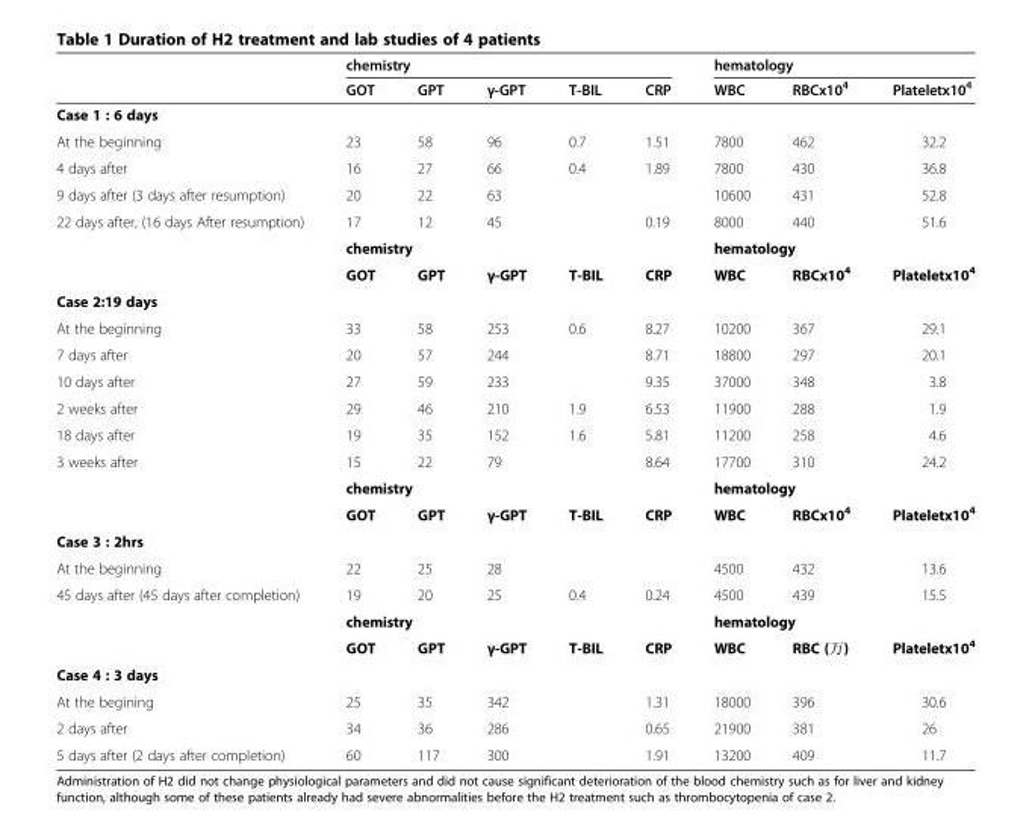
<table><thead><tr><td rowspan="2"></td><td colspan="5">chemistry</td><td colspan="3">hematology</td></tr><tr><td>GOT</td><td>GPT</td><td>γ-GPT</td><td>T-BIL</td><td>CRP</td><td>WBC</td><td>RBCx10<sup>4</sup></td><td>Plateletx10<sup>4</sup></td></tr></thead><tbody><tr><td colspan="9">Case 1 : 6 days</td></tr><tr><td>At the beginning</td><td>23</td><td>58</td><td>96</td><td>0.7</td><td>1.51</td><td>7800</td><td>462</td><td>32.2</td></tr><tr><td>4 days after</td><td>16</td><td>27</td><td>66</td><td>0.4</td><td>1.89</td><td>7800</td><td>430</td><td>36.8</td></tr><tr><td>9 days after (3 days after resumption)</td><td>20</td><td>22</td><td>63</td><td></td><td></td><td>10600</td><td>431</td><td>52.8</td></tr><tr><td rowspan="3">22 days after, (16 days After resumption)</td><td>17</td><td>12</td><td>45</td><td></td><td>0.19</td><td>8000</td><td>440</td><td>51.6</td></tr><tr><td colspan="5">chemistry</td><td colspan="3">hematology</td></tr><tr><td>GOT</td><td>GPT</td><td>γ-GPT</td><td>T-BIL</td><td>CRP</td><td>WBC</td><td>RBCx10<sup>4</sup></td><td>Plateletx10<sup>4</sup></td></tr><tr><td colspan="9">Case 2:19 days</td></tr><tr><td>At the beginning</td><td>33</td><td>58</td><td>253</td><td>0.6</td><td>8.27</td><td>10200</td><td>367</td><td>29.1</td></tr><tr><td>7 days after</td><td>20</td><td>57</td><td>244</td><td></td><td>8.71</td><td>18800</td><td>297</td><td>20.1</td></tr><tr><td>10 days after</td><td>27</td><td>59</td><td>233</td><td></td><td>9.35</td><td>37000</td><td>348</td><td>3.8</td></tr><tr><td>2 weeks after</td><td>29</td><td>46</td><td>210</td><td>1.9</td><td>6.53</td><td>11900</td><td>288</td><td>1.9</td></tr><tr><td>18 days after</td><td>19</td><td>35</td><td>152</td><td>1.6</td><td>5.81</td><td>11200</td><td>258</td><td>4.6</td></tr><tr><td rowspan="3">3 weeks after</td><td>15</td><td>22</td><td>79</td><td></td><td>8.64</td><td>17700</td><td>310</td><td>24.2</td></tr><tr><td colspan="5">chemistry</td><td colspan="3">hematology</td></tr><tr><td>GOT</td><td>GPT</td><td>γ-GPT</td><td>T-BIL</td><td>CRP</td><td>WBC</td><td>RBCx10<sup>4</sup></td><td>Plateletx10<sup>4</sup></td></tr><tr><td colspan="9">Case 3 : 2hrs</td></tr><tr><td>At the beginning</td><td>22</td><td>25</td><td>28</td><td></td><td></td><td>4500</td><td>432</td><td>13.6</td></tr><tr><td rowspan="3">45 days after (45 days after completion)</td><td>19</td><td>20</td><td>25</td><td>0.4</td><td>0.24</td><td>4500</td><td>439</td><td>15.5</td></tr><tr><td colspan="5">chemistry</td><td colspan="3">hematology</td></tr><tr><td>GOT</td><td>GPT</td><td>γ-GPT</td><td>T-BIL</td><td>CRP</td><td>WBC</td><td>RBC (万)</td><td>Plateletx10<sup>4</sup></td></tr><tr><td colspan="9">Case 4 : 3 days</td></tr><tr><td>At the begining</td><td>25</td><td>35</td><td>342</td><td></td><td>1.31</td><td>18000</td><td>396</td><td>30.6</td></tr><tr><td>2 days after</td><td>34</td><td>36</td><td>286</td><td></td><td>0.65</td><td>21900</td><td>381</td><td>26</td></tr><tr><td>5 days after (2 days after completion)</td><td>60</td><td>117</td><td>300</td><td></td><td>1.91</td><td>13200</td><td>409</td><td>11.7</td></tr></tbody></table>